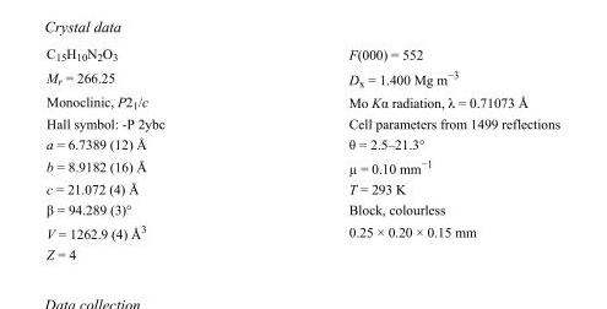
<table><tbody><tr><td>C<sub>15</sub>H<sub>10</sub>N<sub>2</sub>O<sub>3</sub></td><td>F(000) = 552</td></tr><tr><td>M<sub>r</sub> = 266.25</td><td>D<sub>x</sub> = 1.400 Mg m<sup>−3</sup></td></tr><tr><td>Monoclinic, P2<sub>1</sub>/c</td><td>Mo Kα radiation, λ = 0.71073 Å</td></tr><tr><td>Hall symbol: -P 2ybc</td><td>Cell parameters from 1499 reflections</td></tr><tr><td>a = 6.7389 (12) Å</td><td>θ = 2.5–21.3°</td></tr><tr><td>b = 8.9182 (16) Å</td><td>µ = 0.10 mm<sup>−1</sup></td></tr><tr><td>c = 21.072 (4) Å</td><td>T = 293 K</td></tr><tr><td>β = 94.289 (3)°</td><td>Block, colourless</td></tr><tr><td>V = 1262.9 (4) Å<sup>3</sup></td><td>0.25 × 0.20 × 0.15 mm</td></tr><tr><td>Z = 4</td><td></td></tr></tbody></table>